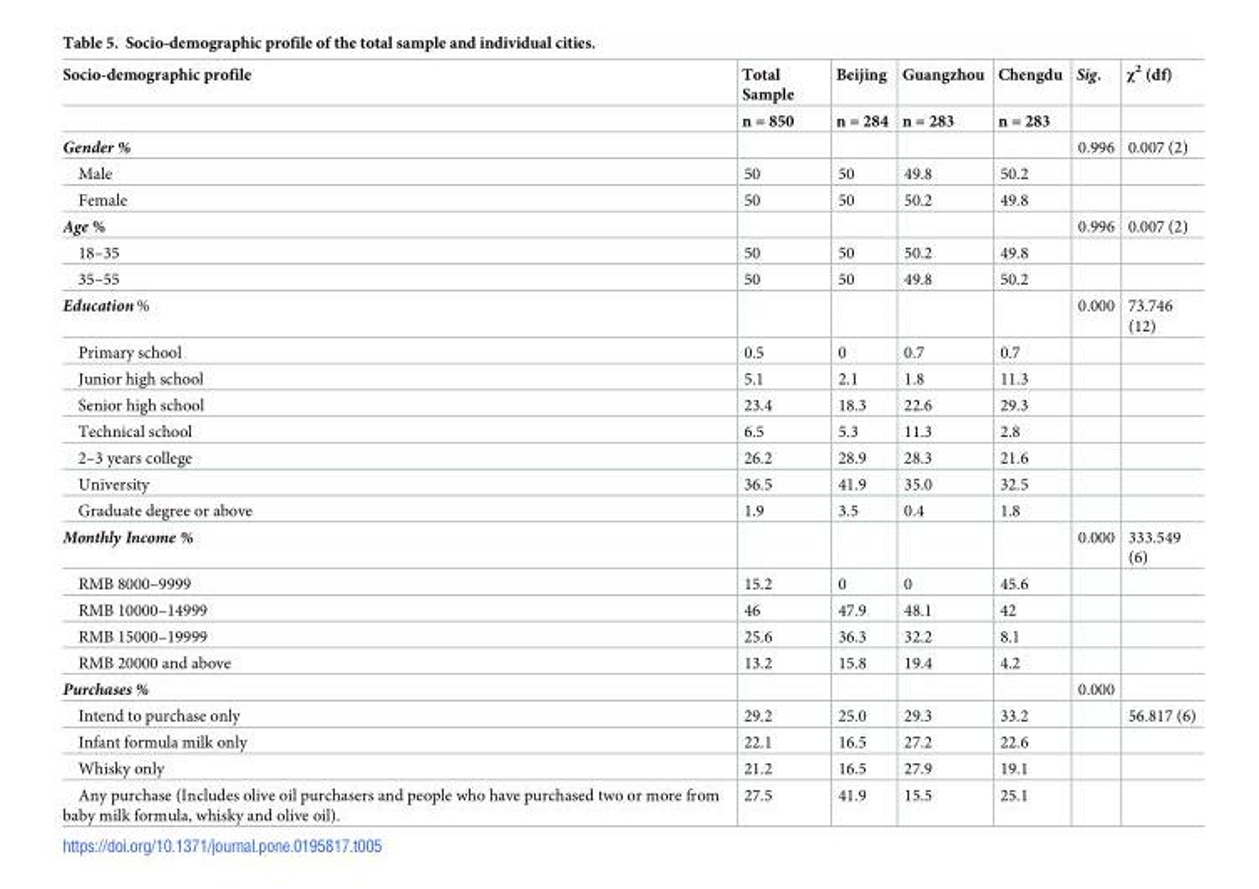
<table><thead><tr><td rowspan="2">Socio-demographic profile</td><td rowspan="2">Total Sample n = 850</td><td rowspan="2">Beijing n = 284</td><td rowspan="2">Guangzhou n = 283</td><td rowspan="2">Chengdu n = 283</td><td rowspan="2">Sig.</td><td rowspan="2">χ<sup>2</sup> (df)</td></tr><tr></tr></thead><tbody><tr><td>Gender %</td><td></td><td></td><td></td><td></td><td>0.996</td><td>0.007 (2)</td></tr><tr><td>Male</td><td>50</td><td>50</td><td>49.8</td><td>50.2</td><td></td><td></td></tr><tr><td>Female</td><td>50</td><td>50</td><td>50.2</td><td>49.8</td><td></td><td></td></tr><tr><td>Age %</td><td></td><td></td><td></td><td></td><td>0.996</td><td>0.007 (2)</td></tr><tr><td>18–35</td><td>50</td><td>50</td><td>50.2</td><td>49.8</td><td></td><td></td></tr><tr><td>35–55</td><td>50</td><td>50</td><td>49.8</td><td>50.2</td><td></td><td></td></tr><tr><td>Education %</td><td></td><td></td><td></td><td></td><td>0.000</td><td>73.746 (12)</td></tr><tr><td>Primary school</td><td>0.5</td><td>0</td><td>0.7</td><td>0.7</td><td></td><td></td></tr><tr><td>Junior high school</td><td>5.1</td><td>2.1</td><td>1.8</td><td>11.3</td><td></td><td></td></tr><tr><td>Senior high school</td><td>23.4</td><td>18.3</td><td>22.6</td><td>29.3</td><td></td><td></td></tr><tr><td>Technical school</td><td>6.5</td><td>5.3</td><td>11.3</td><td>2.8</td><td></td><td></td></tr><tr><td>2–3 years college</td><td>26.2</td><td>28.9</td><td>28.3</td><td>21.6</td><td></td><td></td></tr><tr><td>University</td><td>36.5</td><td>41.9</td><td>35.0</td><td>32.5</td><td></td><td></td></tr><tr><td>Graduate degree or above</td><td>1.9</td><td>3.5</td><td>0.4</td><td>1.8</td><td></td><td></td></tr><tr><td>Monthly Income %</td><td></td><td></td><td></td><td></td><td>0.000</td><td>333.549 (6)</td></tr><tr><td>RMB 8000–9999</td><td>15.2</td><td>0</td><td>0</td><td>45.6</td><td></td><td></td></tr><tr><td>RMB 10000–14999</td><td>46</td><td>47.9</td><td>48.1</td><td>42</td><td></td><td></td></tr><tr><td>RMB 15000–19999</td><td>25.6</td><td>36.3</td><td>32.2</td><td>8.1</td><td></td><td></td></tr><tr><td>RMB 20000 and above</td><td>13.2</td><td>15.8</td><td>19.4</td><td>4.2</td><td></td><td></td></tr><tr><td>Purchases %</td><td></td><td></td><td></td><td></td><td>0.000</td><td></td></tr><tr><td>Intend to purchase only</td><td>29.2</td><td>25.0</td><td>29.3</td><td>33.2</td><td></td><td>56.817 (6)</td></tr><tr><td>Infant formula milk only</td><td>22.1</td><td>16.5</td><td>27.2</td><td>22.6</td><td></td><td></td></tr><tr><td>Whisky only</td><td>21.2</td><td>16.5</td><td>27.9</td><td>19.1</td><td></td><td></td></tr><tr><td>Any purchase (Includes olive oil purchasers and people who have purchased two or more from baby milk formula, whisky and olive oil).</td><td>27.5</td><td>41.9</td><td>15.5</td><td>25.1</td><td></td><td></td></tr></tbody></table>